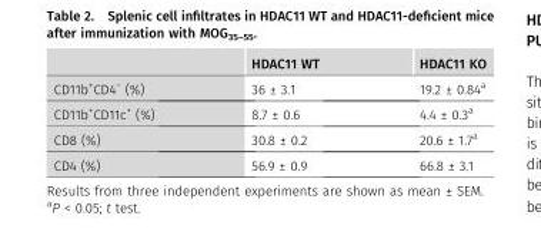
<table><thead><tr><td></td><td>HDAC11 WT</td><td>HDAC11 KO</td></tr></thead><tbody><tr><td>CD11b<sup>+</sup>CD4<sup>−</sup> (%)</td><td>36 ± 3.1</td><td>19.2 ± 0.84<sup>a</sup></td></tr><tr><td>CD11b<sup>+</sup>CD11c<sup>+</sup> (%)</td><td>8.7 ± 0.6</td><td>4.4 ± 0.3<sup>a</sup></td></tr><tr><td>CD8 (%)</td><td>30.8 ± 0.2</td><td>20.6 ± 1.7<sup>a</sup></td></tr><tr><td>CD4 (%)</td><td>56.9 ± 0.9</td><td>66.8 ± 3.1</td></tr></tbody></table>